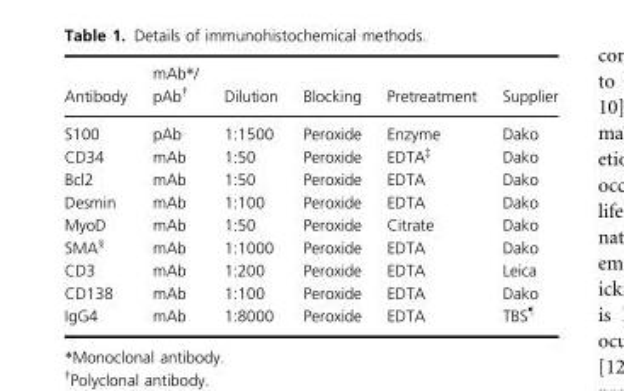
<table><thead><tr><td>Antibody</td><td>mAb*/ pAb†</td><td>Dilution</td><td>Blocking</td><td>Pretreatment</td><td>Supplier</td></tr></thead><tbody><tr><td>S100</td><td>pAb</td><td>1:1500</td><td>Peroxide</td><td>Enzyme</td><td>Dako</td></tr><tr><td>CD34</td><td>mAb</td><td>1:50</td><td>Peroxide</td><td>EDTA‡</td><td>Dako</td></tr><tr><td>Bcl2</td><td>mAb</td><td>1:50</td><td>Peroxide</td><td>EDTA</td><td>Dako</td></tr><tr><td>Desmin</td><td>mAb</td><td>1:100</td><td>Peroxide</td><td>EDTA</td><td>Dako</td></tr><tr><td>MyoD</td><td>mAb</td><td>1:50</td><td>Peroxide</td><td>Citrate</td><td>Dako</td></tr><tr><td>SMA§</td><td>mAb</td><td>1:1000</td><td>Peroxide</td><td>EDTA</td><td>Dako</td></tr><tr><td>CD3</td><td>mAb</td><td>1:200</td><td>Peroxide</td><td>EDTA</td><td>Leica</td></tr><tr><td>CD138</td><td>mAb</td><td>1:100</td><td>Peroxide</td><td>EDTA</td><td>Dako</td></tr><tr><td>IgG4</td><td>mAb</td><td>1:8000</td><td>Peroxide</td><td>EDTA</td><td>TBS–</td></tr></tbody></table>